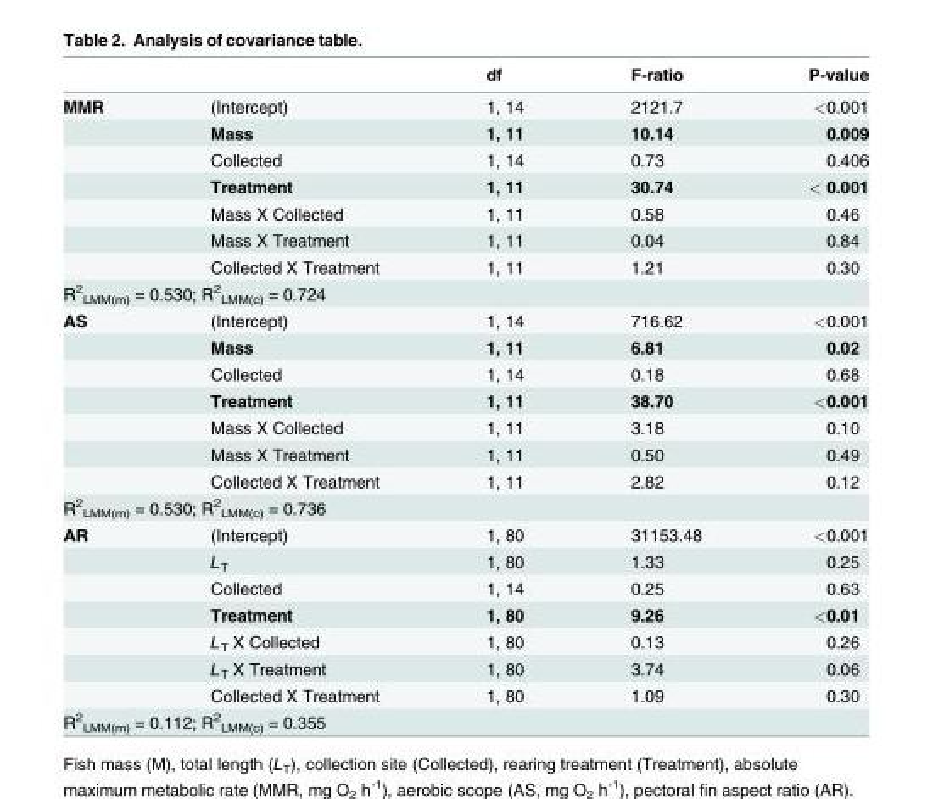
<table><thead><tr><td></td><td></td><td>df</td><td>F-ratio</td><td>P-value</td></tr></thead><tbody><tr><td rowspan="7">MMR</td><td>(Intercept)</td><td>1, 14</td><td>2121.7</td><td>&lt;0.001</td></tr><tr><td>Mass</td><td>1, 11</td><td>10.14</td><td>0.009</td></tr><tr><td>Collected</td><td>1, 14</td><td>0.73</td><td>0.406</td></tr><tr><td>Treatment</td><td>1, 11</td><td>30.74</td><td>&lt; 0.001</td></tr><tr><td>Mass X Collected</td><td>1, 11</td><td>0.58</td><td>0.46</td></tr><tr><td>Mass X Treatment</td><td>1, 11</td><td>0.04</td><td>0.84</td></tr><tr><td>Collected X Treatment</td><td>1, 11</td><td>1.21</td><td>0.30</td></tr><tr><td colspan="5">R<sup>2</sup> <sub>LMM(m)</sub> = 0.530; R<sup>2</sup> <sub>LMM(c)</sub> = 0.724</td></tr><tr><td rowspan="7">AS</td><td>(Intercept)</td><td>1, 14</td><td>716.62</td><td>&lt;0.001</td></tr><tr><td>Mass</td><td>1, 11</td><td>6.81</td><td>0.02</td></tr><tr><td>Collected</td><td>1, 14</td><td>0.18</td><td>0.68</td></tr><tr><td>Treatment</td><td>1, 11</td><td>38.70</td><td>&lt;0.001</td></tr><tr><td>Mass X Collected</td><td>1, 11</td><td>3.18</td><td>0.10</td></tr><tr><td>Mass X Treatment</td><td>1, 11</td><td>0.50</td><td>0.49</td></tr><tr><td>Collected X Treatment</td><td>1, 11</td><td>2.82</td><td>0.12</td></tr><tr><td colspan="5">R<sup>2</sup> <sub>LMM(m)</sub> = 0.530; R<sup>2</sup> <sub>LMM(c)</sub> = 0.736</td></tr><tr><td rowspan="7">AR</td><td>(Intercept)</td><td>1, 80</td><td>31153.48</td><td>&lt;0.001</td></tr><tr><td>L<sub>T</sub></td><td>1, 80</td><td>1.33</td><td>0.25</td></tr><tr><td>Collected</td><td>1, 14</td><td>0.25</td><td>0.63</td></tr><tr><td>Treatment</td><td>1, 80</td><td>9.26</td><td>&lt;0.01</td></tr><tr><td>L<sub>T</sub> X Collected</td><td>1, 80</td><td>0.13</td><td>0.26</td></tr><tr><td>L<sub>T</sub> X Treatment</td><td>1, 80</td><td>3.74</td><td>0.06</td></tr><tr><td>Collected X Treatment</td><td>1, 80</td><td>1.09</td><td>0.30</td></tr><tr><td colspan="2">R<sup>2</sup> <sub>LMM(m)</sub> = 0.112; R<sup>2</sup> <sub>LMM(c)</sub> = 0.355</td><td></td><td></td><td></td></tr></tbody></table>